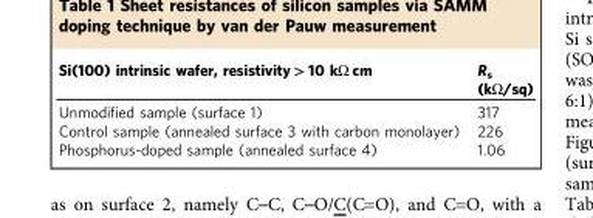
<table><thead><tr><td>Si(100) intrinsic wafer, resistivity &gt; 10 kΩ cm</td><td>R<sub>s</sub> (kΩ/sq)</td></tr></thead><tbody><tr><td>Unmodified sample (surface 1)</td><td>317</td></tr><tr><td>Control sample (annealed surface 3 with carbon monolayer)</td><td>226</td></tr><tr><td>Phosphorus-doped sample (annealed surface 4)</td><td>1.06</td></tr></tbody></table>